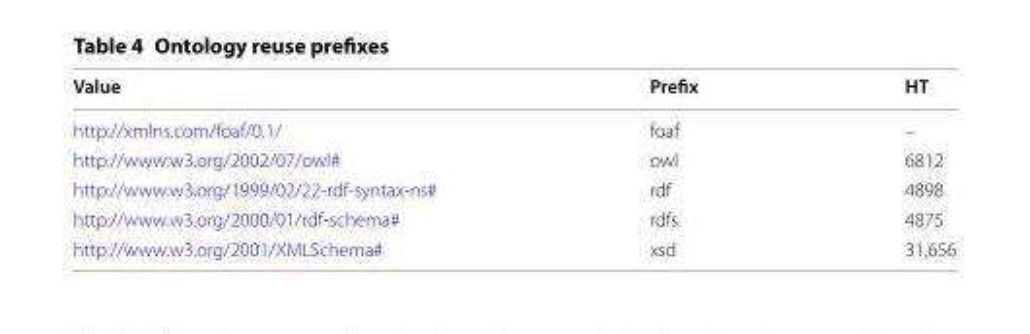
<table><thead><tr><td>Value</td><td>Prefix</td><td>HT</td></tr></thead><tbody><tr><td>http://xmlns.com/foaf/0.1/</td><td>foaf</td><td>–</td></tr><tr><td>http://www.w3.org/2002/07/owl#</td><td>owl</td><td>6812</td></tr><tr><td>http://www.w3.org/1999/02/22-rdf-syntax-ns#</td><td>rdf</td><td>4898</td></tr><tr><td>http://www.w3.org/2000/01/rdf-schema#</td><td>rdfs</td><td>4875</td></tr><tr><td>http://www.w3.org/2001/XMLSchema#</td><td>xsd</td><td>31,656</td></tr></tbody></table>